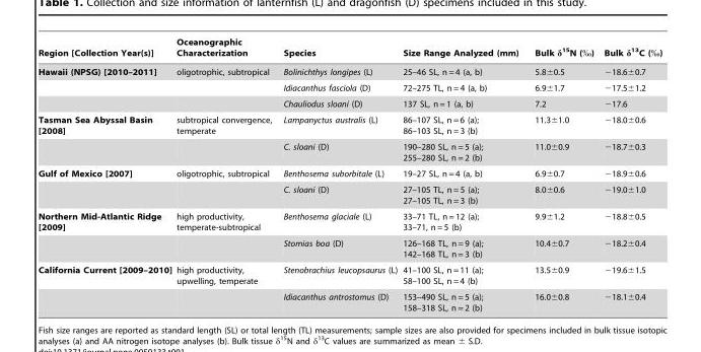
<table><thead><tr><td>Region [Collection Year(s)]</td><td>Oceanographic Characterization</td><td>Species</td><td>Size Range Analyzed (mm)</td><td>Bulk δ<sup>15</sup>N (‰)</td><td>Bulk δ<sup>13</sup>C (‰)</td></tr></thead><tbody><tr><td rowspan="3">Hawaii (NPSG) [2010–2011]</td><td>oligotrophic, subtropical</td><td>Bolinichthys longipes (L)</td><td>25–46 SL, n = 4 (a, b)</td><td>5.8±0.5</td><td>−18.6±0.7</td></tr><tr><td></td><td>Idiacanthus fasciola (D)</td><td>72–275 TL, n = 4 (a, b)</td><td>6.9±1.7</td><td>−17.5±1.2</td></tr><tr><td></td><td>Chauliodus sloani (D)</td><td>137 SL, n = 1 (a, b)</td><td>7.2</td><td>−17.6</td></tr><tr><td rowspan="2">Tasman Sea Abyssal Basin [2008]</td><td>subtropical convergence, temperate</td><td>Lampanyctus australis (L)</td><td>86–107 SL, n = 6 (a); 86–103 SL, n = 3 (b)</td><td>11.3±1.0</td><td>−18.0±0.6</td></tr><tr><td></td><td>C. sloani (D)</td><td>190–280 SL, n = 5 (a); 255–280 SL, n = 2 (b)</td><td>11.0±0.9</td><td>−18.7±0.3</td></tr><tr><td rowspan="2">Gulf of Mexico [2007]</td><td>oligotrophic, subtropical</td><td>Benthosema suborbitale (L)</td><td>19–27 SL, n = 4 (a, b)</td><td>6.9±0.7</td><td>−18.9±0.6</td></tr><tr><td></td><td>C. sloani (D)</td><td>27–105 TL, n = 5 (a); 27–105 TL, n = 3 (b)</td><td>8.0±0.6</td><td>−19.0±1.0</td></tr><tr><td rowspan="2">Northern Mid-Atlantic Ridge [2009]</td><td>high productivity, temperate-subtropical</td><td>Benthosema glaciale (L)</td><td>33–71 TL, n = 12 (a); 33–71, n = 5 (b)</td><td>9.9±1.2</td><td>−18.8±0.5</td></tr><tr><td></td><td>Stomias boa (D)</td><td>126–168 TL, n = 9 (a); 142–168 TL, n = 3 (b)</td><td>10.4±0.7</td><td>−18.2±0.4</td></tr><tr><td rowspan="2">California Current [2009–2010]</td><td>high productivity, upwelling, temperate</td><td>Stenobrachius leucopsaurus (L)</td><td>41–100 SL, n = 11 (a); 58–100 SL, n = 4 (b)</td><td>13.5±0.9</td><td>−19.6±1.5</td></tr><tr><td></td><td>Idiacanthus antrostomus (D)</td><td>153–490 SL, n = 5 (a); 158–318 SL, n = 2 (b)</td><td>16.0±0.8</td><td>−18.1±0.4</td></tr></tbody></table>